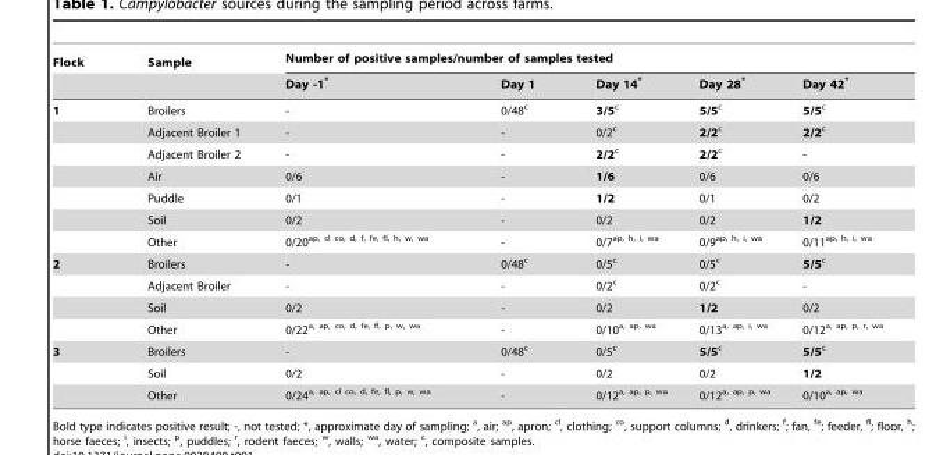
<table><thead><tr><td rowspan="2">Flock</td><td rowspan="2">Sample</td><td colspan="5">Number of positive samples/number of samples tested</td></tr><tr><td>Day -1*</td><td>Day 1</td><td>Day 14*</td><td>Day 28*</td><td>Day 42*</td></tr></thead><tbody><tr><td rowspan="7">1</td><td>Broilers</td><td>-</td><td>0/48<sup>c</sup></td><td>3/5<sup>c</sup></td><td>5/5<sup>c</sup></td><td>5/5<sup>c</sup></td></tr><tr><td>Adjacent Broiler 1</td><td>-</td><td>-</td><td>0/2<sup>c</sup></td><td>2/2<sup>c</sup></td><td>2/2<sup>c</sup></td></tr><tr><td>Adjacent Broiler 2</td><td>-</td><td>-</td><td>2/2<sup>c</sup></td><td>2/2<sup>c</sup></td><td>-</td></tr><tr><td>Air</td><td>0/6</td><td>-</td><td>1/6</td><td>0/6</td><td>0/6</td></tr><tr><td>Puddle</td><td>0/1</td><td>-</td><td>1/2</td><td>0/1</td><td>0/2</td></tr><tr><td>Soil</td><td>0/2</td><td>-</td><td>0/2</td><td>0/2</td><td>1/2</td></tr><tr><td>Other</td><td>0/20<sup>ap, cl co, d, f, fe, fl, h, w, wa</sup></td><td>-</td><td>0/7<sup>ap, h, i, wa</sup></td><td>0/9<sup>ap, h, i, wa</sup></td><td>0/11<sup>ap, h, i, wa</sup></td></tr><tr><td rowspan="4">2</td><td>Broilers</td><td>-</td><td>0/48<sup>c</sup></td><td>0/5<sup>c</sup></td><td>0/5<sup>c</sup></td><td>5/5<sup>c</sup></td></tr><tr><td>Adjacent Broiler</td><td>-</td><td>-</td><td>0/2<sup>c</sup></td><td>0/2<sup>c</sup></td><td>-</td></tr><tr><td>Soil</td><td>0/2</td><td>-</td><td>0/2</td><td>1/2</td><td>0/2</td></tr><tr><td>Other</td><td>0/22<sup>a, ap, co, d, fe, fl, p, w, wa</sup></td><td>-</td><td>0/10<sup>a, ap, wa</sup></td><td>0/13<sup>a, ap, i, wa</sup></td><td>0/12<sup>a, ap, p, r, wa</sup></td></tr><tr><td rowspan="3">3</td><td>Broilers</td><td>-</td><td>0/48<sup>c</sup></td><td>0/5<sup>c</sup></td><td>5/5<sup>c</sup></td><td>5/5<sup>c</sup></td></tr><tr><td>Soil</td><td>0/2</td><td>-</td><td>0/2</td><td>0/2</td><td>1/2</td></tr><tr><td>Other</td><td>0/24<sup>a, ap, cl co, d, fe, fl, p, w, wa</sup></td><td>-</td><td>0/12<sup>a, ap, p, wa</sup></td><td>0/12<sup>a, ap, p, wa</sup></td><td>0/10<sup>a, ap, wa</sup></td></tr></tbody></table>